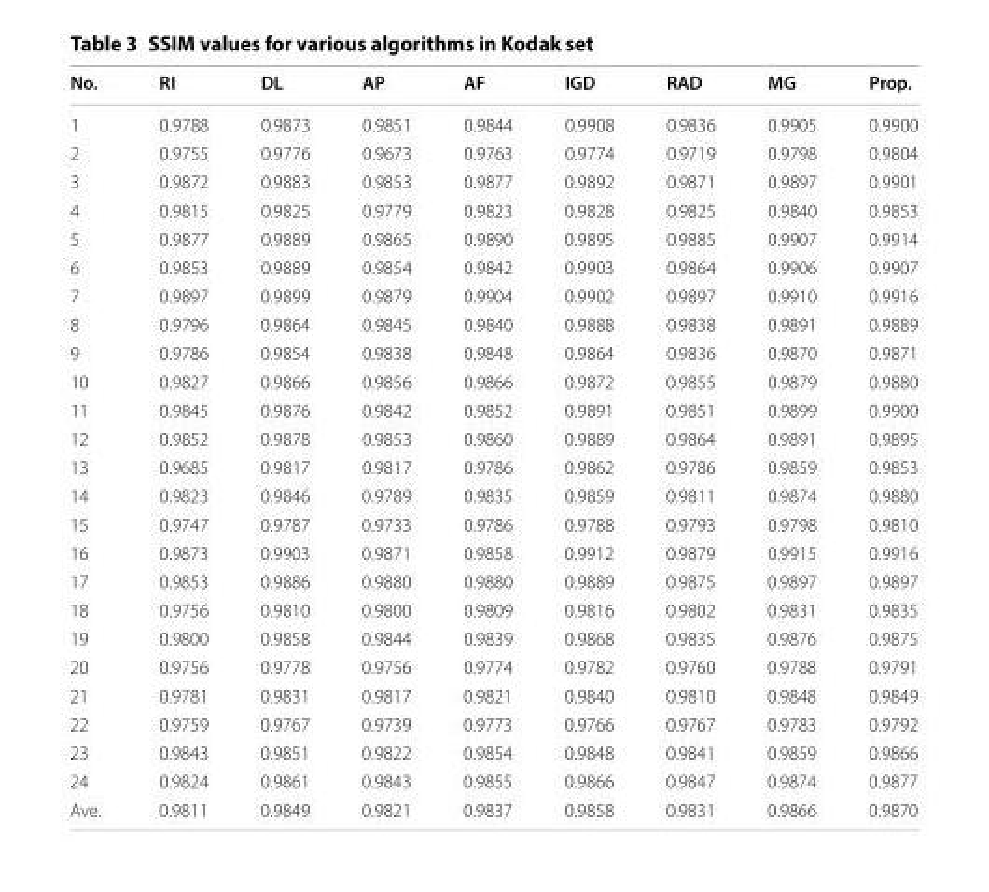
<table><thead><tr><td>No.</td><td>RI</td><td>DL</td><td>AP</td><td>AF</td><td>IGD</td><td>RAD</td><td>MG</td><td>Prop.</td></tr></thead><tbody><tr><td>1</td><td>0.9788</td><td>0.9873</td><td>0.9851</td><td>0.9844</td><td>0.9908</td><td>0.9836</td><td>0.9905</td><td>0.9900</td></tr><tr><td>2</td><td>0.9755</td><td>0.9776</td><td>0.9673</td><td>0.9763</td><td>0.9774</td><td>0.9719</td><td>0.9798</td><td>0.9804</td></tr><tr><td>3</td><td>0.9872</td><td>0.9883</td><td>0.9853</td><td>0.9877</td><td>0.9892</td><td>0.9871</td><td>0.9897</td><td>0.9901</td></tr><tr><td>4</td><td>0.9815</td><td>0.9825</td><td>0.9779</td><td>0.9823</td><td>0.9828</td><td>0.9825</td><td>0.9840</td><td>0.9853</td></tr><tr><td>5</td><td>0.9877</td><td>0.9889</td><td>0.9865</td><td>0.9890</td><td>0.9895</td><td>0.9885</td><td>0.9907</td><td>0.9914</td></tr><tr><td>6</td><td>0.9853</td><td>0.9889</td><td>0.9854</td><td>0.9842</td><td>0.9903</td><td>0.9864</td><td>0.9906</td><td>0.9907</td></tr><tr><td>7</td><td>0.9897</td><td>0.9899</td><td>0.9879</td><td>0.9904</td><td>0.9902</td><td>0.9897</td><td>0.9910</td><td>0.9916</td></tr><tr><td>8</td><td>0.9796</td><td>0.9864</td><td>0.9845</td><td>0.9840</td><td>0.9888</td><td>0.9838</td><td>0.9891</td><td>0.9889</td></tr><tr><td>9</td><td>0.9786</td><td>0.9854</td><td>0.9838</td><td>0.9848</td><td>0.9864</td><td>0.9836</td><td>0.9870</td><td>0.9871</td></tr><tr><td>10</td><td>0.9827</td><td>0.9866</td><td>0.9856</td><td>0.9866</td><td>0.9872</td><td>0.9855</td><td>0.9879</td><td>0.9880</td></tr><tr><td>11</td><td>0.9845</td><td>0.9876</td><td>0.9842</td><td>0.9852</td><td>0.9891</td><td>0.9851</td><td>0.9899</td><td>0.9900</td></tr><tr><td>12</td><td>0.9852</td><td>0.9878</td><td>0.9853</td><td>0.9860</td><td>0.9889</td><td>0.9864</td><td>0.9891</td><td>0.9895</td></tr><tr><td>13</td><td>0.9685</td><td>0.9817</td><td>0.9817</td><td>0.9786</td><td>0.9862</td><td>0.9786</td><td>0.9859</td><td>0.9853</td></tr><tr><td>14</td><td>0.9823</td><td>0.9846</td><td>0.9789</td><td>0.9835</td><td>0.9859</td><td>0.9811</td><td>0.9874</td><td>0.9880</td></tr><tr><td>15</td><td>0.9747</td><td>0.9787</td><td>0.9733</td><td>0.9786</td><td>0.9788</td><td>0.9793</td><td>0.9798</td><td>0.9810</td></tr><tr><td>16</td><td>0.9873</td><td>0.9903</td><td>0.9871</td><td>0.9858</td><td>0.9912</td><td>0.9879</td><td>0.9915</td><td>0.9916</td></tr><tr><td>17</td><td>0.9853</td><td>0.9886</td><td>0.9880</td><td>0.9880</td><td>0.9889</td><td>0.9875</td><td>0.9897</td><td>0.9897</td></tr><tr><td>18</td><td>0.9756</td><td>0.9810</td><td>0.9800</td><td>0.9809</td><td>0.9816</td><td>0.9802</td><td>0.9831</td><td>0.9835</td></tr><tr><td>19</td><td>0.9800</td><td>0.9858</td><td>0.9844</td><td>0.9839</td><td>0.9868</td><td>0.9835</td><td>0.9876</td><td>0.9875</td></tr><tr><td>20</td><td>0.9756</td><td>0.9778</td><td>0.9756</td><td>0.9774</td><td>0.9782</td><td>0.9760</td><td>0.9788</td><td>0.9791</td></tr><tr><td>21</td><td>0.9781</td><td>0.9831</td><td>0.9817</td><td>0.9821</td><td>0.9840</td><td>0.9810</td><td>0.9848</td><td>0.9849</td></tr><tr><td>22</td><td>0.9759</td><td>0.9767</td><td>0.9739</td><td>0.9773</td><td>0.9766</td><td>0.9767</td><td>0.9783</td><td>0.9792</td></tr><tr><td>23</td><td>0.9843</td><td>0.9851</td><td>0.9822</td><td>0.9854</td><td>0.9848</td><td>0.9841</td><td>0.9859</td><td>0.9866</td></tr><tr><td>24</td><td>0.9824</td><td>0.9861</td><td>0.9843</td><td>0.9855</td><td>0.9866</td><td>0.9847</td><td>0.9874</td><td>0.9877</td></tr><tr><td>Ave.</td><td>0.9811</td><td>0.9849</td><td>0.9821</td><td>0.9837</td><td>0.9858</td><td>0.9831</td><td>0.9866</td><td>0.9870</td></tr></tbody></table>